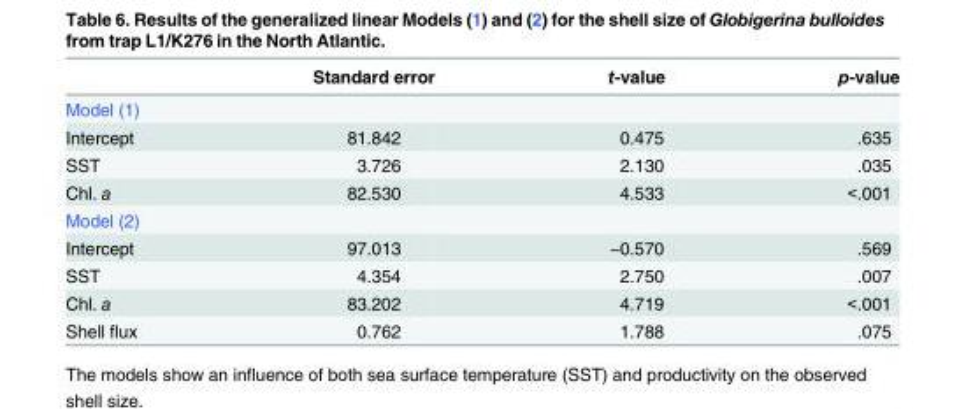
<table><thead><tr><td></td><td>Standard error</td><td>t-value</td><td>p-value</td></tr></thead><tbody><tr><td colspan="4">Model (1)</td></tr><tr><td>Intercept</td><td>81.842</td><td>0.475</td><td>.635</td></tr><tr><td>SST</td><td>3.726</td><td>2.130</td><td>.035</td></tr><tr><td>Chl. a</td><td>82.530</td><td>4.533</td><td>&lt;.001</td></tr><tr><td colspan="4">Model (2)</td></tr><tr><td>Intercept</td><td>97.013</td><td>−0.570</td><td>.569</td></tr><tr><td>SST</td><td>4.354</td><td>2.750</td><td>.007</td></tr><tr><td>Chl. a</td><td>83.202</td><td>4.719</td><td>&lt;.001</td></tr><tr><td>Shell flux</td><td>0.762</td><td>1.788</td><td>.075</td></tr></tbody></table>